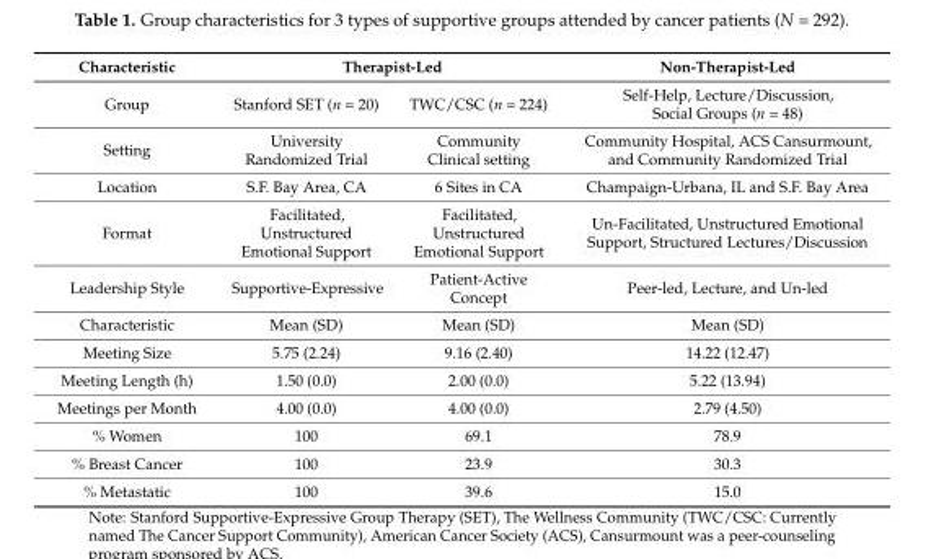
<table><thead><tr><td rowspan="2">Characteristic Group</td><td colspan="2">Therapist-Led</td><td rowspan="2">Non-Therapist-Led Self-Help, Lecture/Discussion, Social Groups (n = 48)</td></tr><tr><td>Stanford SET (n = 20)</td><td>TWC/CSC (n = 224)</td></tr></thead><tbody><tr><td>Setting</td><td>University Randomized Trial</td><td>Community Clinical setting</td><td>Community Hospital, ACS Cansurmount, and Community Randomized Trial</td></tr><tr><td>Location</td><td>S.F. Bay Area, CA</td><td>6 Sites in CA</td><td>Champaign-Urbana, IL and S.F. Bay Area</td></tr><tr><td>Format</td><td>Facilitated, Unstructured Emotional Support</td><td>Facilitated, Unstructured Emotional Support</td><td>Un-Facilitated, Unstructured Emotional Support, Structured Lectures/Discussion</td></tr><tr><td>Leadership Style</td><td>Supportive-Expressive</td><td>Patient-Active Concept</td><td>Peer-led, Lecture, and Un-led</td></tr><tr><td>Characteristic</td><td>Mean (SD)</td><td>Mean (SD)</td><td>Mean (SD)</td></tr><tr><td>Meeting Size</td><td>5.75 (2.24)</td><td>9.16 (2.40)</td><td>14.22 (12.47)</td></tr><tr><td>Meeting Length (h)</td><td>1.50 (0.0)</td><td>2.00 (0.0)</td><td>5.22 (13.94)</td></tr><tr><td>Meetings per Month</td><td>4.00 (0.0)</td><td>4.00 (0.0)</td><td>2.79 (4.50)</td></tr><tr><td>% Women</td><td>100</td><td>69.1</td><td>78.9</td></tr><tr><td>% Breast Cancer</td><td>100</td><td>23.9</td><td>30.3</td></tr><tr><td>% Metastatic</td><td>100</td><td>39.6</td><td>15.0</td></tr></tbody></table>